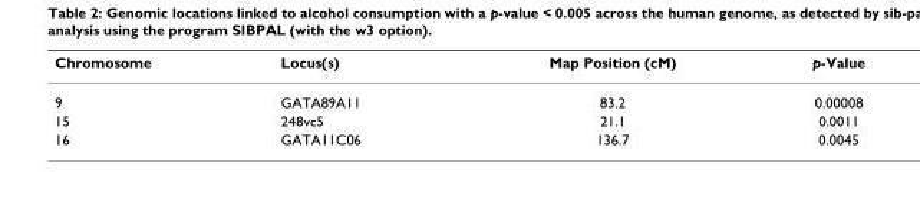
<table><thead><tr><td>Chromosome</td><td>Locus(s)</td><td>Map Position (cM)</td><td>p-Value</td></tr></thead><tbody><tr><td>9</td><td>GATA89A11</td><td>83.2</td><td>0.00008</td></tr><tr><td>15</td><td>248vc5</td><td>21.1</td><td>0.0011</td></tr><tr><td>16</td><td>GATA11C06</td><td>136.7</td><td>0.0045</td></tr></tbody></table>